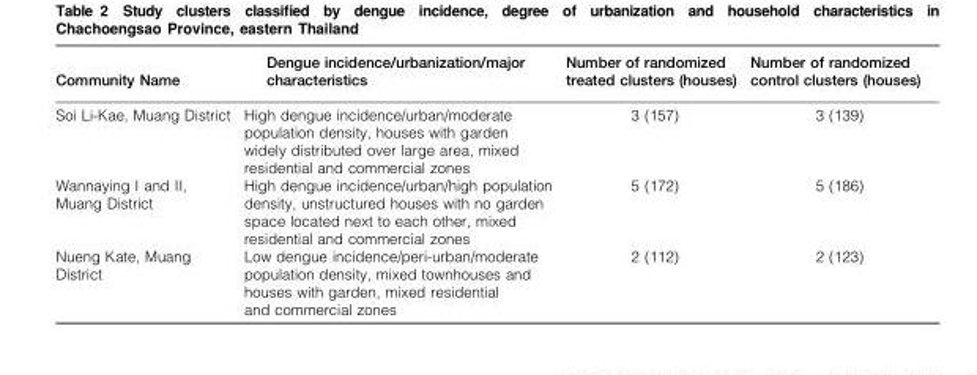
<table><thead><tr><td>Community Name</td><td>Dengue incidence/urbanization/major characteristics</td><td>Number of randomized treated clusters (houses)</td><td>Number of randomized control clusters (houses)</td></tr></thead><tbody><tr><td>Soi Li-Kae, Muang District</td><td>High dengue incidence/urban/moderate population density, houses with garden widely distributed over large area, mixed residential and commercial zones</td><td>3 (157)</td><td>3 (139)</td></tr><tr><td>Wannaying I and II, Muang District</td><td>High dengue incidence/urban/high population density, unstructured houses with no garden space located next to each other, mixed residential and commercial zones</td><td>5 (172)</td><td>5 (186)</td></tr><tr><td>Nueng Kate, Muang District</td><td>Low dengue incidence/peri-urban/moderate population density, mixed townhouses and houses with garden, mixed residential and commercial zones</td><td>2 (112)</td><td>2 (123)</td></tr></tbody></table>